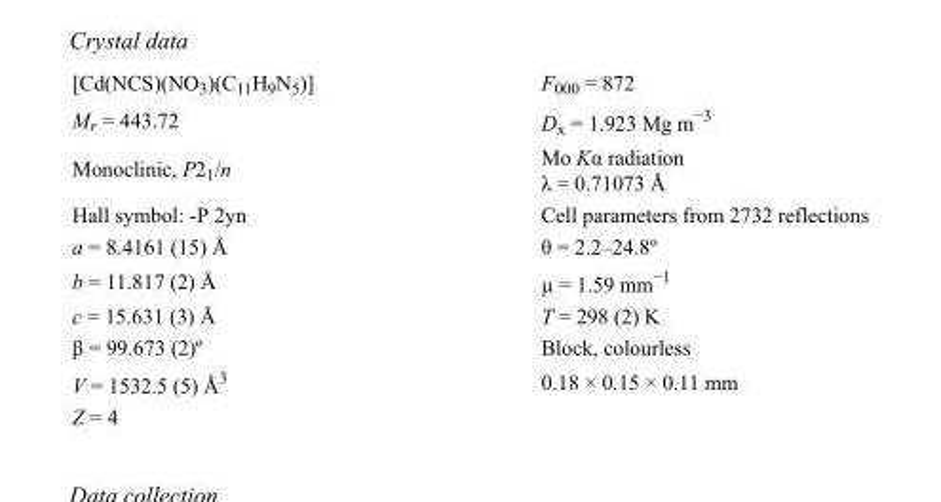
<table><tbody><tr><td>[Cd(NCS)(NO<sub>3</sub>)(C<sub>11</sub>H<sub>9</sub>N<sub>5</sub>)]</td><td>F000 = 872</td></tr><tr><td>M<sub>r</sub> = 443.72</td><td>D<sub>x</sub> = 1.923 Mg m<sup>−3</sup></td></tr><tr><td>Monoclinic, P2<sub>1</sub>/n</td><td>Mo Kα radiation λ = 0.71073 Å</td></tr><tr><td>Hall symbol: -P 2yn</td><td>Cell parameters from 2732 reflections</td></tr><tr><td>a = 8.4161 (15) Å</td><td>θ = 2.2–24.8º</td></tr><tr><td>b = 11.817 (2) Å</td><td>µ = 1.59 mm<sup>−1</sup></td></tr><tr><td>c = 15.631 (3) Å</td><td>T = 298 (2) K</td></tr><tr><td>β = 99.673 (2)º</td><td>Block, colourless</td></tr><tr><td>V = 1532.5 (5) Å<sup>3</sup></td><td>0.18 × 0.15 × 0.11 mm</td></tr><tr><td>Z = 4</td><td></td></tr></tbody></table>